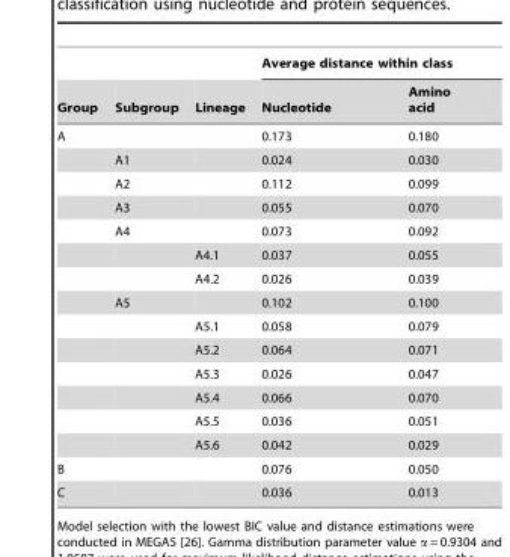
<table><thead><tr><td rowspan="2">Group</td><td rowspan="2">Subgroup</td><td rowspan="2">Lineage</td><td colspan="2">Average distance within class</td></tr><tr><td>Nucleotide</td><td>Amino acid</td></tr></thead><tbody><tr><td rowspan="14">A</td><td></td><td></td><td>0.173</td><td>0.180</td></tr><tr><td>A1</td><td></td><td>0.024</td><td>0.030</td></tr><tr><td>A2</td><td></td><td>0.112</td><td>0.099</td></tr><tr><td>A3</td><td></td><td>0.055</td><td>0.070</td></tr><tr><td>A4</td><td></td><td>0.073</td><td>0.092</td></tr><tr><td></td><td>A4.1</td><td>0.037</td><td>0.055</td></tr><tr><td></td><td>A4.2</td><td>0.026</td><td>0.039</td></tr><tr><td>A5</td><td></td><td>0.102</td><td>0.100</td></tr><tr><td></td><td>A5.1</td><td>0.058</td><td>0.079</td></tr><tr><td></td><td>A5.2</td><td>0.064</td><td>0.071</td></tr><tr><td></td><td>A5.3</td><td>0.026</td><td>0.047</td></tr><tr><td></td><td>A5.4</td><td>0.066</td><td>0.070</td></tr><tr><td></td><td>A5.5</td><td>0.036</td><td>0.051</td></tr><tr><td></td><td>A5.6</td><td>0.042</td><td>0.029</td></tr><tr><td>B</td><td></td><td></td><td>0.076</td><td>0.050</td></tr><tr><td>C</td><td></td><td></td><td>0.036</td><td>0.013</td></tr></tbody></table>